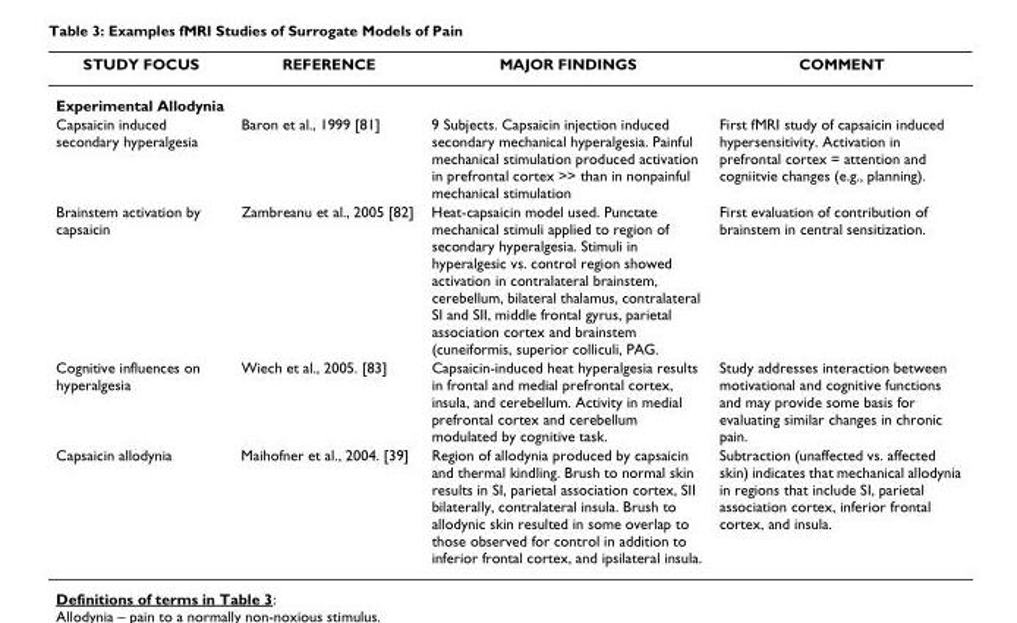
<table><thead><tr><td>STUDY FOCUS</td><td>REFERENCE</td><td>MAJOR FINDINGS</td><td>COMMENT</td></tr></thead><tbody><tr><td colspan="4">Experimental Allodynia</td></tr><tr><td>Capsaicin induced secondary hyperalgesia</td><td>Baron et al., 1999 [81]</td><td>9 Subjects. Capsaicin injection induced secondary mechanical hyperalgesia. Painful mechanical stimulation produced activation in prefrontal cortex &gt;&gt; than in nonpainful mechanical stimulation</td><td>First fMRI study of capsaicin induced hypersensitivity. Activation in prefrontal cortex = attention and cogniitvie changes (e.g., planning).</td></tr><tr><td>Brainstem activation by capsaicin</td><td>Zambreanu et al., 2005 [82]</td><td>Heat-capsaicin model used. Punctate mechanical stimuli applied to region of secondary hyperalgesia. Stimuli in hyperalgesic vs. control region showed activation in contralateral brainstem, cerebellum, bilateral thalamus, contralateral SI and SII, middle frontal gyrus, parietal association cortex and brainstem (cuneiformis, superior colliculi, PAG.</td><td>First evaluation of contribution of brainstem in central sensitization.</td></tr><tr><td>Cognitive influences on hyperalgesia</td><td>Wiech et al., 2005. [83]</td><td>Capsaicin-induced heat hyperalgesia results in frontal and medial prefrontal cortex, insula, and cerebellum. Activity in medial prefrontal cortex and cerebellum modulated by cognitive task.</td><td>Study addresses interaction between motivational and cognitive functions and may provide some basis for evaluating similar changes in chronic pain.</td></tr><tr><td>Capsaicin allodynia</td><td>Maihofner et al., 2004. [39]</td><td>Region of allodynia produced by capsaicin and thermal kindling. Brush to normal skin results in SI, parietal association cortex, SII bilaterally, contralateral insula. Brush to allodynic skin resulted in some overlap to those observed for control in addition to inferior frontal cortex, and ipsilateral insula.</td><td>Subtraction (unaffected vs. affected skin) indicates that mechanical allodynia in regions that include SI, parietal association cortex, inferior frontal cortex, and insula.</td></tr></tbody></table>